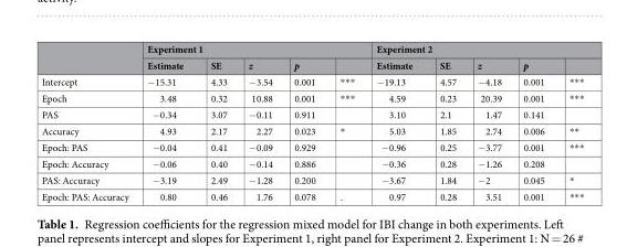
<table><thead><tr><td rowspan="2"></td><td colspan="5">Experiment 1</td><td colspan="5">Experiment 2</td></tr><tr><td>Estimate</td><td>SE</td><td>z</td><td>p</td><td></td><td>Estimate</td><td>SE</td><td>z</td><td>p</td><td></td></tr></thead><tbody><tr><td>Intercept</td><td>−15.31</td><td>4.33</td><td>−3.54</td><td>0.001</td><td>***</td><td>−19.13</td><td>4.57</td><td>−4.18</td><td>0.001</td><td>***</td></tr><tr><td>Epoch</td><td>3.48</td><td>0.32</td><td>10.88</td><td>0.001</td><td>***</td><td>4.59</td><td>0.23</td><td>20.39</td><td>0.001</td><td>***</td></tr><tr><td>PAS</td><td>−0.34</td><td>3.07</td><td>−0.11</td><td>0.911</td><td></td><td>3.10</td><td>2.1</td><td>1.47</td><td>0.141</td><td></td></tr><tr><td>Accuracy</td><td>4.93</td><td>2.17</td><td>2.27</td><td>0.023</td><td>*</td><td>5.03</td><td>1.85</td><td>2.74</td><td>0.006</td><td>**</td></tr><tr><td>Epoch: PAS</td><td>−0.04</td><td>0.41</td><td>−0.09</td><td>0.929</td><td></td><td>−0.96</td><td>0.25</td><td>−3.77</td><td>0.001</td><td>***</td></tr><tr><td>Epoch: Accuracy</td><td>−0.06</td><td>0.40</td><td>−0.14</td><td>0.886</td><td></td><td>−0.36</td><td>0.28</td><td>−1.26</td><td>0.208</td><td></td></tr><tr><td>PAS: Accuracy</td><td>−3.19</td><td>2.49</td><td>−1.28</td><td>0.200</td><td></td><td>−3.67</td><td>1.84</td><td>−2</td><td>0.045</td><td>*</td></tr><tr><td>Epoch: PAS: Accuracy</td><td>0.80</td><td>0.46</td><td>1.76</td><td>0.078</td><td>.</td><td>0.97</td><td>0.28</td><td>3.51</td><td>0.001</td><td>***</td></tr></tbody></table>